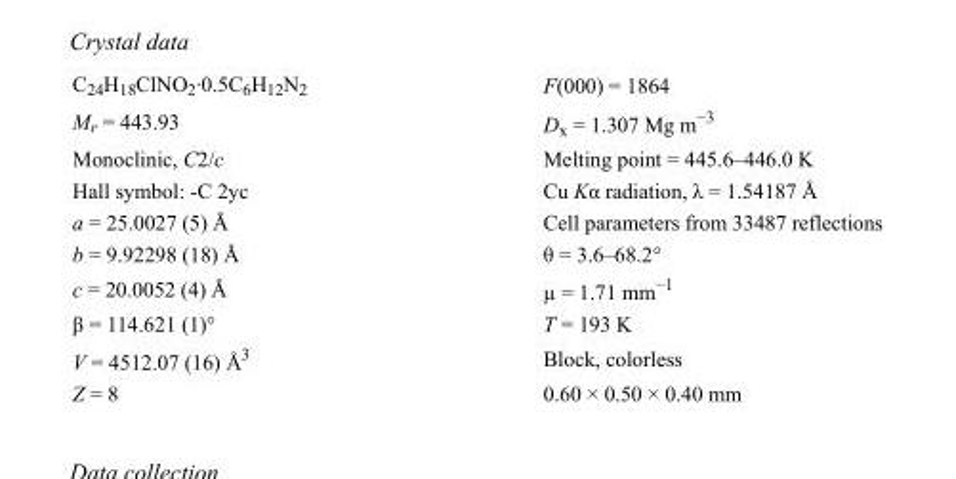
<table><tbody><tr><td>C<sub>24</sub>H<sub>18</sub>ClNO<sub>2</sub>·0.5C<sub>6</sub>H<sub>12</sub>N<sub>2</sub></td><td>F(000) = 1864</td></tr><tr><td>M<sub>r</sub> = 443.93</td><td>D<sub>x</sub> = 1.307 Mg m<sup>−3</sup></td></tr><tr><td>Monoclinic, C2/c</td><td>Melting point = 445.6–446.0 K</td></tr><tr><td>Hall symbol: -C 2yc</td><td>Cu Kα radiation, λ = 1.54187 Å</td></tr><tr><td>a = 25.0027 (5) Å</td><td>Cell parameters from 33487 reflections</td></tr><tr><td>b = 9.92298 (18) Å</td><td>θ = 3.6–68.2°</td></tr><tr><td>c = 20.0052 (4) Å</td><td>µ = 1.71 mm<sup>−1</sup></td></tr><tr><td>β = 114.621 (1)°</td><td>T = 193 K</td></tr><tr><td>V = 4512.07 (16) Å<sup>3</sup></td><td>Block, colorless</td></tr><tr><td>Z = 8</td><td>0.60 × 0.50 × 0.40 mm</td></tr></tbody></table>